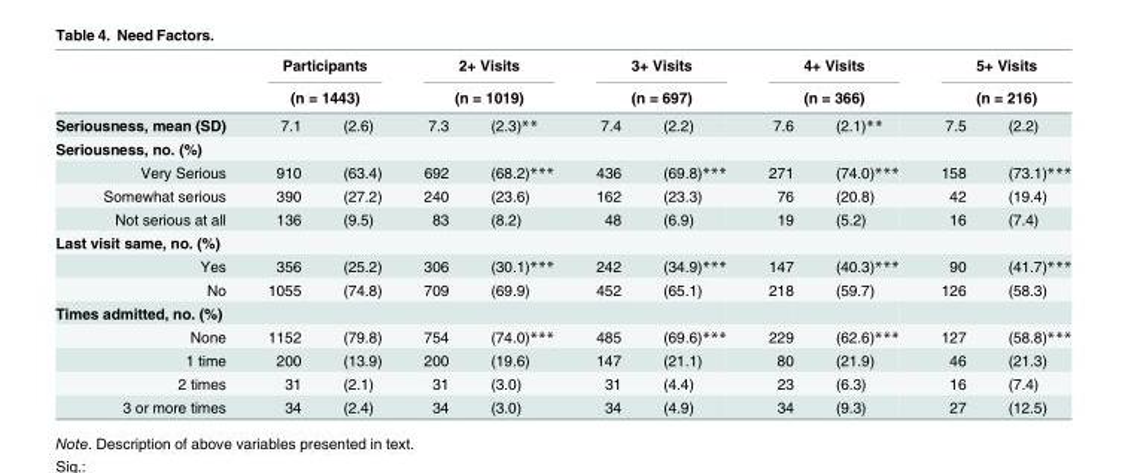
<table><thead><tr><td rowspan="3">Seriousness, mean (SD)</td><td rowspan="2" colspan="2">Participants (n = 1443)</td><td rowspan="2" colspan="2">2+ Visits (n = 1019)</td><td rowspan="2" colspan="2">3+ Visits (n = 697)</td><td rowspan="2" colspan="2">4+ Visits (n = 366)</td><td rowspan="2" colspan="2">5+ Visits (n = 216)</td></tr><tr></tr><tr><td>7.1</td><td>(2.6)</td><td>7.3</td><td>(2.3)**</td><td>7.4</td><td>(2.2)</td><td>7.6</td><td>(2.1)**</td><td>7.5</td><td>(2.2)</td></tr></thead><tbody><tr><td colspan="11">Seriousness, no. (%)</td></tr><tr><td>Very Serious</td><td>910</td><td>(63.4)</td><td>692</td><td>(68.2)***</td><td>436</td><td>(69.8)***</td><td>271</td><td>(74.0)***</td><td>158</td><td>(73.1)***</td></tr><tr><td>Somewhat serious</td><td>390</td><td>(27.2)</td><td>240</td><td>(23.6)</td><td>162</td><td>(23.3)</td><td>76</td><td>(20.8)</td><td>42</td><td>(19.4)</td></tr><tr><td>Not serious at all</td><td>136</td><td>(9.5)</td><td>83</td><td>(8.2)</td><td>48</td><td>(6.9)</td><td>19</td><td>(5.2)</td><td>16</td><td>(7.4)</td></tr><tr><td colspan="11">Last visit same, no. (%)</td></tr><tr><td>Yes</td><td>356</td><td>(25.2)</td><td>306</td><td>(30.1)***</td><td>242</td><td>(34.9)***</td><td>147</td><td>(40.3)***</td><td>90</td><td>(41.7)***</td></tr><tr><td>No</td><td>1055</td><td>(74.8)</td><td>709</td><td>(69.9)</td><td>452</td><td>(65.1)</td><td>218</td><td>(59.7)</td><td>126</td><td>(58.3)</td></tr><tr><td colspan="11">Times admitted, no. (%)</td></tr><tr><td>None</td><td>1152</td><td>(79.8)</td><td>754</td><td>(74.0)***</td><td>485</td><td>(69.6)***</td><td>229</td><td>(62.6)***</td><td>127</td><td>(58.8)***</td></tr><tr><td>1 time</td><td>200</td><td>(13.9)</td><td>200</td><td>(19.6)</td><td>147</td><td>(21.1)</td><td>80</td><td>(21.9)</td><td>46</td><td>(21.3)</td></tr><tr><td>2 times</td><td>31</td><td>(2.1)</td><td>31</td><td>(3.0)</td><td>31</td><td>(4.4)</td><td>23</td><td>(6.3)</td><td>16</td><td>(7.4)</td></tr><tr><td>3 or more times</td><td>34</td><td>(2.4)</td><td>34</td><td>(3.0)</td><td>34</td><td>(4.9)</td><td>34</td><td>(9.3)</td><td>27</td><td>(12.5)</td></tr></tbody></table>